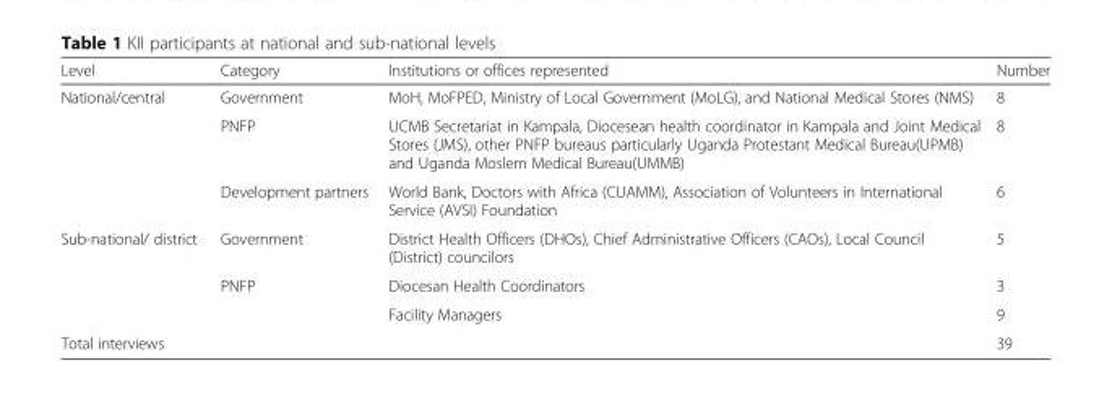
<table><thead><tr><td>Level</td><td>Category</td><td>Institutions or offices represented</td><td>Number</td></tr></thead><tbody><tr><td rowspan="3">National/central</td><td>Government</td><td>MoH, MoFPED, Ministry of Local Government (MoLG), and National Medical Stores (NMS)</td><td>8</td></tr><tr><td>PNFP</td><td>UCMB Secretariat in Kampala, Diocesean health coordinator in Kampala and Joint Medical Stores (JMS), other PNFP bureaus particularly Uganda Protestant Medical Bureau(UPMB) and Uganda Moslem Medical Bureau(UMMB)</td><td>8</td></tr><tr><td>Development partners</td><td>World Bank, Doctors with Africa (CUAMM), Association of Volunteers in International Service (AVSI) Foundation</td><td>6</td></tr><tr><td rowspan="3">Sub-national/ district</td><td>Government</td><td>District Health Officers (DHOs), Chief Administrative Officers (CAOs), Local Council (District) councilors</td><td>5</td></tr><tr><td rowspan="2">PNFP</td><td>Diocesan Health Coordinators</td><td>3</td></tr><tr><td>Facility Managers</td><td>9</td></tr><tr><td colspan="3">Total interviews</td><td>39</td></tr></tbody></table>